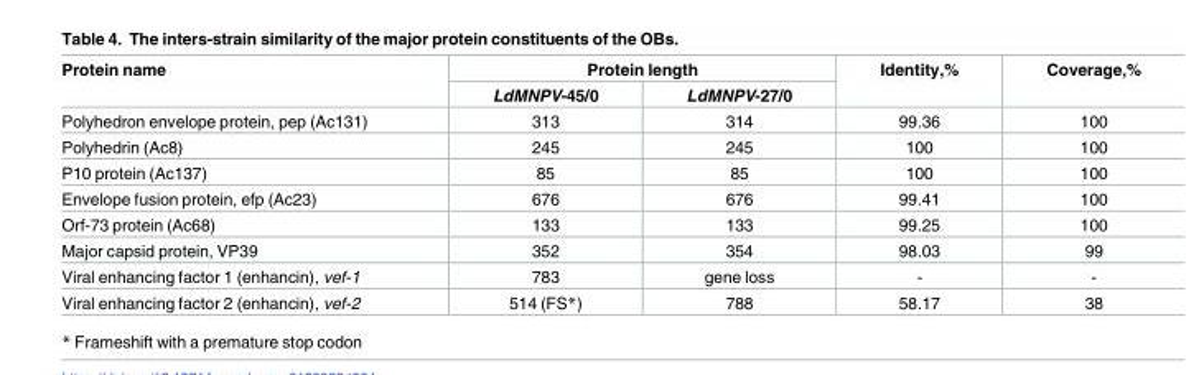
<table><thead><tr><td rowspan="2">Protein name</td><td colspan="2">Protein length</td><td rowspan="2">Identity,%</td><td rowspan="2">Coverage,%</td></tr><tr><td>LdMNPV-45/0</td><td>LdMNPV-27/0</td></tr></thead><tbody><tr><td>Polyhedron envelope protein, pep (Ac131)</td><td>313</td><td>314</td><td>99.36</td><td>100</td></tr><tr><td>Polyhedrin (Ac8)</td><td>245</td><td>245</td><td>100</td><td>100</td></tr><tr><td>P10 protein (Ac137)</td><td>85</td><td>85</td><td>100</td><td>100</td></tr><tr><td>Envelope fusion protein, efp (Ac23)</td><td>676</td><td>676</td><td>99.41</td><td>100</td></tr><tr><td>Orf-73 protein (Ac68)</td><td>133</td><td>133</td><td>99.25</td><td>100</td></tr><tr><td>Major capsid protein, VP39</td><td>352</td><td>354</td><td>98.03</td><td>99</td></tr><tr><td>Viral enhancing factor 1 (enhancin), vef-1</td><td>783</td><td>gene loss</td><td>-</td><td>-</td></tr><tr><td>Viral enhancing factor 2 (enhancin), vef-2</td><td>514 (FS*)</td><td>788</td><td>58.17</td><td>38</td></tr></tbody></table>